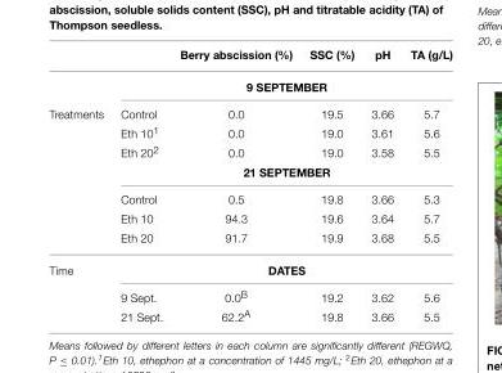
<table><thead><tr><td></td><td></td><td>Berry abscission (%)</td><td>SSC (%)</td><td>pH</td><td>TA (g/L)</td></tr></thead><tbody><tr><td></td><td colspan="5">9 SEPTEMBER</td></tr><tr><td rowspan="7">Treatments</td><td>Control</td><td>0.0</td><td>19.5</td><td>3.66</td><td>5.7</td></tr><tr><td>Eth 10<sup>1</sup></td><td>0.0</td><td>19.0</td><td>3.61</td><td>5.6</td></tr><tr><td>Eth 20<sup>2</sup></td><td>0.0</td><td>19.0</td><td>3.58</td><td>5.5</td></tr><tr><td colspan="5">21 SEPTEMBER</td></tr><tr><td>Control</td><td>0.5</td><td>19.8</td><td>3.66</td><td>5.3</td></tr><tr><td>Eth 10</td><td>94.3</td><td>19.6</td><td>3.64</td><td>5.7</td></tr><tr><td>Eth 20</td><td>91.7</td><td>19.9</td><td>3.68</td><td>5.5</td></tr><tr><td rowspan="3">Time</td><td colspan="5">DATES</td></tr><tr><td>9 Sept.</td><td>0.0<sup>B</sup></td><td>19.2</td><td>3.62</td><td>5.6</td></tr><tr><td>21 Sept.</td><td>62.2<sup>A</sup></td><td>19.8</td><td>3.66</td><td>5.5</td></tr></tbody></table>